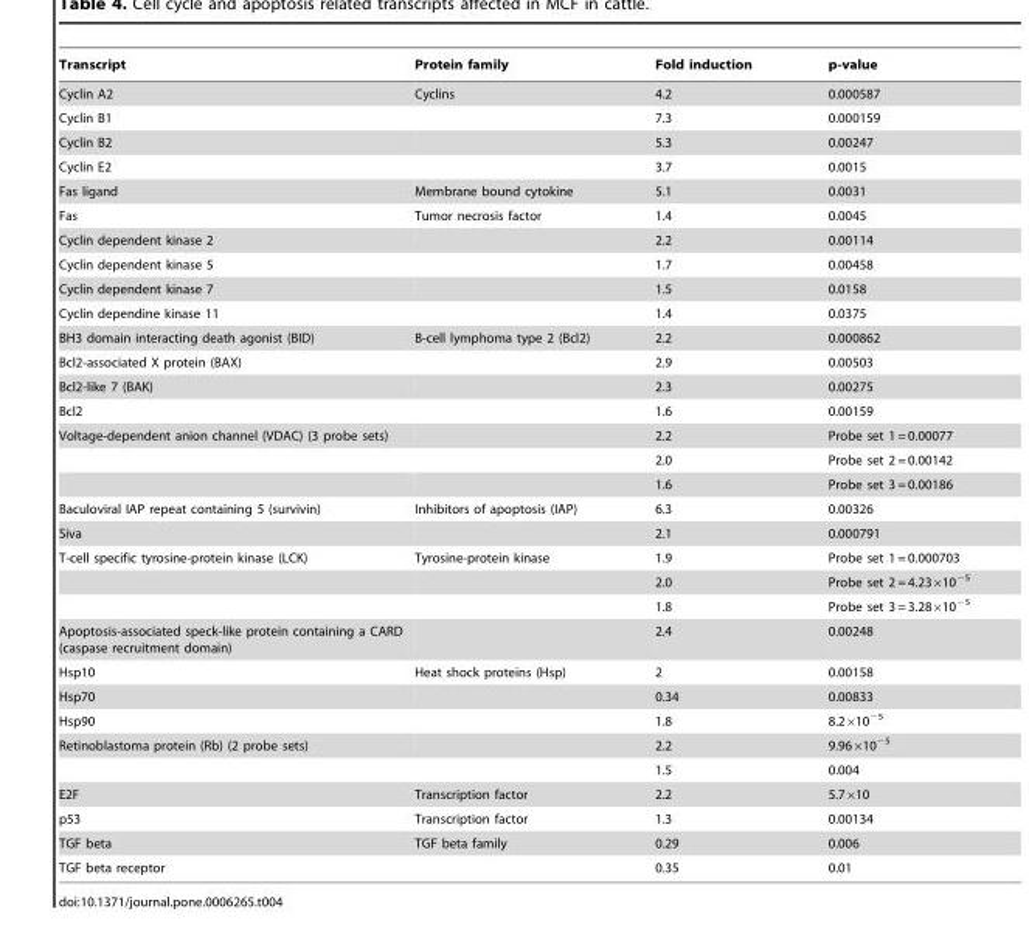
<table><thead><tr><td>Transcript</td><td>Protein family</td><td>Fold induction</td><td>p-value</td></tr></thead><tbody><tr><td>Cyclin A2</td><td>Cyclins</td><td>4.2</td><td>0.000587</td></tr><tr><td>Cyclin B1</td><td></td><td>7.3</td><td>0.000159</td></tr><tr><td>Cyclin B2</td><td></td><td>5.3</td><td>0.00247</td></tr><tr><td>Cyclin E2</td><td></td><td>3.7</td><td>0.0015</td></tr><tr><td>Fas ligand</td><td>Membrane bound cytokine</td><td>5.1</td><td>0.0031</td></tr><tr><td>Fas</td><td>Tumor necrosis factor</td><td>1.4</td><td>0.0045</td></tr><tr><td>Cyclin dependent kinase 2</td><td></td><td>2.2</td><td>0.00114</td></tr><tr><td>Cyclin dependent kinase 5</td><td></td><td>1.7</td><td>0.00458</td></tr><tr><td>Cyclin dependent kinase 7</td><td></td><td>1.5</td><td>0.0158</td></tr><tr><td>Cyclin dependine kinase 11</td><td></td><td>1.4</td><td>0.0375</td></tr><tr><td>BH3 domain interacting death agonist (BID)</td><td>B-cell lymphoma type 2 (Bcl2)</td><td>2.2</td><td>0.000862</td></tr><tr><td>Bcl2-associated X protein (BAX)</td><td></td><td>2.9</td><td>0.00503</td></tr><tr><td>Bcl2-like 7 (BAK)</td><td></td><td>2.3</td><td>0.00275</td></tr><tr><td>Bcl2</td><td></td><td>1.6</td><td>0.00159</td></tr><tr><td rowspan="3">Voltage-dependent anion channel (VDAC) (3 probe sets)</td><td></td><td>2.2</td><td>Probe set 1 = 0.00077</td></tr><tr><td></td><td>2.0</td><td>Probe set 2 = 0.00142</td></tr><tr><td></td><td>1.6</td><td>Probe set 3 = 0.00186</td></tr><tr><td>Baculoviral IAP repeat containing 5 (survivin)</td><td>Inhibitors of apoptosis (IAP)</td><td>6.3</td><td>0.00326</td></tr><tr><td>Siva</td><td></td><td>2.1</td><td>0.000791</td></tr><tr><td rowspan="3">T-cell specific tyrosine-protein kinase (LCK)</td><td>Tyrosine-protein kinase</td><td>1.9</td><td>Probe set 1 = 0.000703</td></tr><tr><td></td><td>2.0</td><td>Probe set 2 = 4.23×10<sup>−5</sup></td></tr><tr><td></td><td>1.8</td><td>Probe set 3 = 3.28×10<sup>−5</sup></td></tr><tr><td>Apoptosis-associated speck-like protein containing a CARD (caspase recruitment domain)</td><td></td><td>2.4</td><td>0.00248</td></tr><tr><td>Hsp10</td><td>Heat shock proteins (Hsp)</td><td>2</td><td>0.00158</td></tr><tr><td>Hsp70</td><td></td><td>0.34</td><td>0.00833</td></tr><tr><td>Hsp90</td><td></td><td>1.8</td><td>8.2×10<sup>−5</sup></td></tr><tr><td rowspan="2">Retinoblastoma protein (Rb) (2 probe sets)</td><td></td><td>2.2</td><td>9.96×10<sup>−5</sup></td></tr><tr><td></td><td>1.5</td><td>0.004</td></tr><tr><td>E2F</td><td>Transcription factor</td><td>2.2</td><td>5.7×10</td></tr><tr><td>p53</td><td>Transcription factor</td><td>1.3</td><td>0.00134</td></tr><tr><td>TGF beta</td><td>TGF beta family</td><td>0.29</td><td>0.006</td></tr><tr><td>TGF beta receptor</td><td></td><td>0.35</td><td>0.01</td></tr></tbody></table>